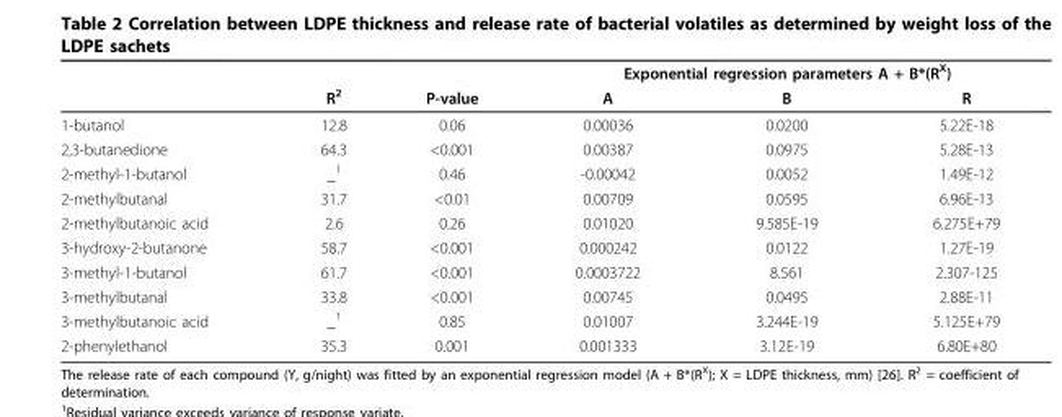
<table><thead><tr><td rowspan="2"></td><td rowspan="2">R<sup>2</sup></td><td rowspan="2">P-value</td><td colspan="3">Exponential regression parameters A + B*(R<sup>X</sup>)</td></tr><tr><td>A</td><td>B</td><td>R</td></tr></thead><tbody><tr><td>1-butanol</td><td>12.8</td><td>0.06</td><td>0.00036</td><td>0.0200</td><td>5.22E-18</td></tr><tr><td>2,3-butanedione</td><td>64.3</td><td>&lt;0.001</td><td>0.00387</td><td>0.0975</td><td>5.28E-13</td></tr><tr><td>2-methyl-1-butanol</td><td>_<sup>1</sup></td><td>0.46</td><td>-0.00042</td><td>0.0052</td><td>1.49E-12</td></tr><tr><td>2-methylbutanal</td><td>31.7</td><td>&lt;0.01</td><td>0.00709</td><td>0.0595</td><td>6.96E-13</td></tr><tr><td>2-methylbutanoic acid</td><td>2.6</td><td>0.26</td><td>0.01020</td><td>9.585E-19</td><td>6.275E+79</td></tr><tr><td>3-hydroxy-2-butanone</td><td>58.7</td><td>&lt;0.001</td><td>0.000242</td><td>0.0122</td><td>1.27E-19</td></tr><tr><td>3-methyl-1-butanol</td><td>61.7</td><td>&lt;0.001</td><td>0.0003722</td><td>8.561</td><td>2.307-125</td></tr><tr><td>3-methylbutanal</td><td>33.8</td><td>&lt;0.001</td><td>0.00745</td><td>0.0495</td><td>2.88E-11</td></tr><tr><td>3-methylbutanoic acid</td><td>_<sup>1</sup></td><td>0.85</td><td>0.01007</td><td>3.244E-19</td><td>5.125E+79</td></tr><tr><td>2-phenylethanol</td><td>35.3</td><td>0.001</td><td>0.001333</td><td>3.12E-19</td><td>6.80E+80</td></tr></tbody></table>